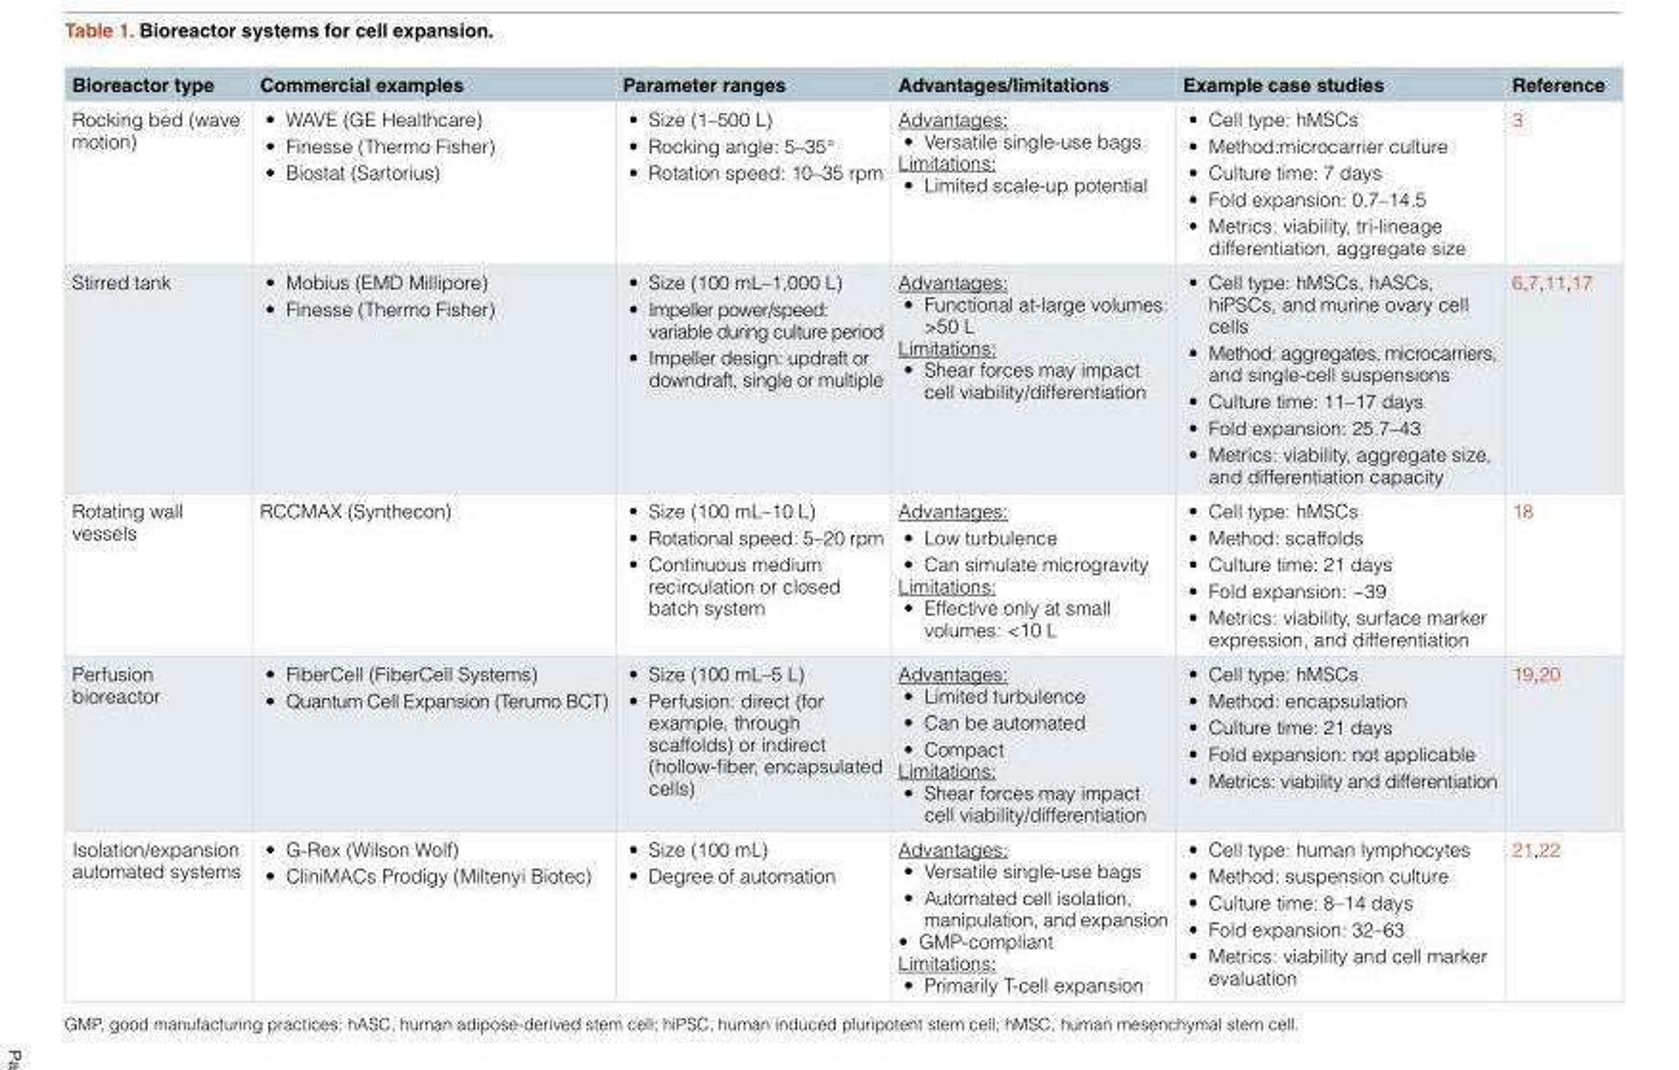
<table><thead><tr><td>Bioreactor type</td><td>Commercial examples</td><td>Parameter ranges</td><td>Advantages/limitations</td><td>Example case studies</td><td>Reference</td></tr></thead><tbody><tr><td>Rocking bed (wave motion)</td><td>• WAVE (GE Healthcare) • Finesse (Thermo Fisher) • Biostat (Sartorius)</td><td>• Size (1–500 L) • Rocking angle: 5–35° • Rotation speed: 10–35 rpm</td><td>Advantages: • Versatile single-use bags Limitations: • Limited scale-up potential</td><td>• Cell type: hMSCs • Method:microcarrier culture • Culture time: 7 days • Fold expansion: 0.7–14.5 • Metrics: viability, tri-lineage differentiation, aggregate size</td><td>3</td></tr><tr><td>Stirred tank</td><td>• Mobius (EMD Millipore) • Finesse (Thermo Fisher)</td><td>• Size (100 mL–1,000 L) • Impeller power/speed: variable during culture period • Impeller design: updraft or downdraft, single or multiple</td><td>Advantages: • Functional at-large volumes: &gt;50 L Limitations: • Shear forces may impact cell viability/differentiation</td><td>• Cell type: hMSCs, hASCs, hiPSCs, and murine ovary cell cells • Method: aggregates, microcarriers, and single-cell suspensions • Culture time: 11–17 days • Fold expansion: 25.7–43 • Metrics: viability, aggregate size, and differentiation capacity</td><td>6,7,11,17</td></tr><tr><td>Rotating wall vessels</td><td>RCCMAX (Synthecon)</td><td>• Size (100 mL–10 L) • Rotational speed: 5–20 rpm • Continuous medium recirculation or closed batch system</td><td>Advantages: • Low turbulence • Can simulate microgravity Limitations: • Effective only at small volumes: &lt;10 L</td><td>• Cell type: hMSCs • Method: scaffolds • Culture time: 21 days • Fold expansion: ~39 • Metrics: viability, surface marker expression, and differentiation</td><td>18</td></tr><tr><td>Perfusion bioreactor</td><td>• FiberCell (FiberCell Systems) • Quantum Cell Expansion (Terumo BCT)</td><td>• Size (100 mL–5 L) • Perfusion: direct (for example, through scaffolds) or indirect (hollow-fiber, encapsulated cells)</td><td>Advantages: • Limited turbulence • Can be automated • Compact Limitations: • Shear forces may impact cell viability/differentiation</td><td>• Cell type: hMSCs • Method: encapsulation • Culture time: 21 days • Fold expansion: not applicable • Metrics: viability and differentiation</td><td>19,20</td></tr><tr><td>Isolation/expansion automated systems</td><td>• G-Rex (Wilson Wolf) • CliniMACs Prodigy (Miltenyi Biotec)</td><td>• Size (100 mL) • Degree of automation</td><td>Advantages: • Versatile single-use bags • Automated cell isolation, manipulation, and expansion • GMP-compliant Limitations: • Primarily T-cell expansion</td><td>• Cell type: human lymphocytes • Method: suspension culture • Culture time: 8–14 days • Fold expansion: 32–63 • Metrics: viability and cell marker evaluation</td><td>21,22</td></tr></tbody></table>